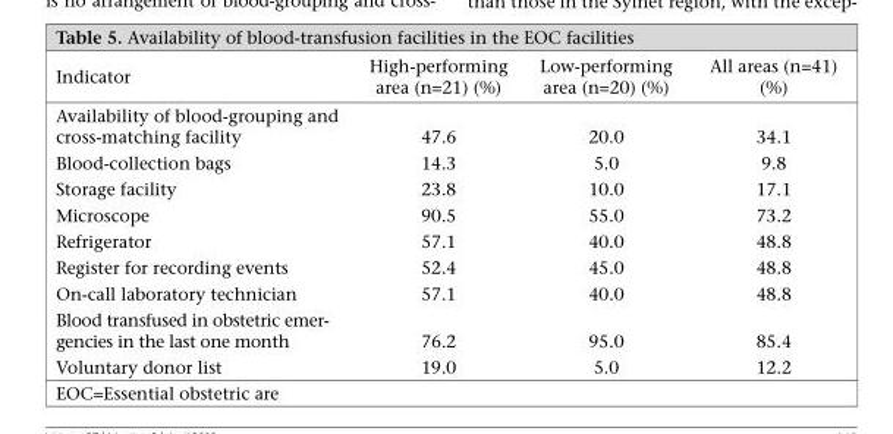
<table><thead><tr><td>Indicator</td><td>High-performing area (n=21) (%)</td><td>Low-performing area (n=20) (%)</td><td>All areas (n=41) (%)</td></tr></thead><tbody><tr><td>Availability of blood-grouping and cross-matching facility</td><td>47.6</td><td>20.0</td><td>34.1</td></tr><tr><td>Blood-collection bags</td><td>14.3</td><td>5.0</td><td>9.8</td></tr><tr><td>Storage facility</td><td>23.8</td><td>10.0</td><td>17.1</td></tr><tr><td>Microscope</td><td>90.5</td><td>55.0</td><td>73.2</td></tr><tr><td>Refrigerator</td><td>57.1</td><td>40.0</td><td>48.8</td></tr><tr><td>Register for recording events</td><td>52.4</td><td>45.0</td><td>48.8</td></tr><tr><td>On-call laboratory technician</td><td>57.1</td><td>40.0</td><td>48.8</td></tr><tr><td>Blood transfused in obstetric emer- gencies in the last one month</td><td>76.2</td><td>95.0</td><td>85.4</td></tr><tr><td>Voluntary donor list</td><td>19.0</td><td>5.0</td><td>12.2</td></tr></tbody></table>